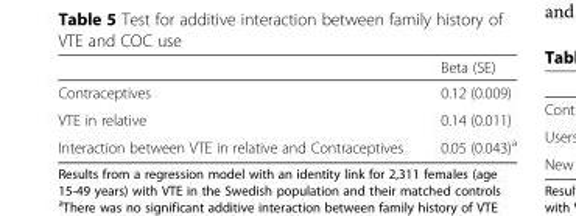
<table><thead><tr><td></td><td>Beta (SE)</td></tr></thead><tbody><tr><td>Contraceptives</td><td>0.12 (0.009)</td></tr><tr><td>VTE in relative</td><td>0.14 (0.011)</td></tr><tr><td>Interaction between VTE in relative and Contraceptives</td><td>0.05 (0.043)<sup>a</sup></td></tr></tbody></table>